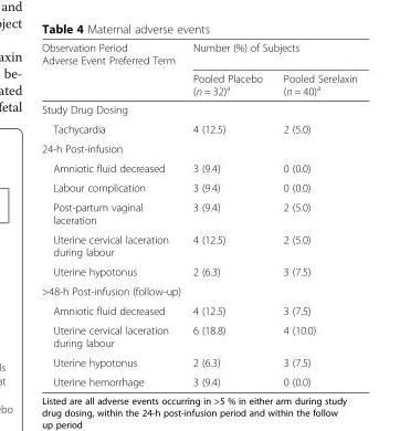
<table><thead><tr><td rowspan="2">Observation Period Adverse Event Preferred Term</td><td colspan="2">Number (%) of Subjects</td></tr><tr><td>Pooled Placebo (n = 32)<sup>a</sup></td><td>Pooled Serelaxin (n = 40)<sup>a</sup></td></tr></thead><tbody><tr><td colspan="3">Study Drug Dosing</td></tr><tr><td>Tachycardia</td><td>4 (12.5)</td><td>2 (5.0)</td></tr><tr><td colspan="3">24-h Post-infusion</td></tr><tr><td>Amniotic fluid decreased</td><td>3 (9.4)</td><td>0 (0.0)</td></tr><tr><td>Labour complication</td><td>3 (9.4)</td><td>0 (0.0)</td></tr><tr><td>Post-partum vaginal laceration</td><td>3 (9.4)</td><td>2 (5.0)</td></tr><tr><td>Uterine cervical laceration during labour</td><td>4 (12.5)</td><td>2 (5.0)</td></tr><tr><td>Uterine hypotonus</td><td>2 (6.3)</td><td>3 (7.5)</td></tr><tr><td colspan="3">&gt;48-h Post-infusion (follow-up)</td></tr><tr><td>Amniotic fluid decreased</td><td>4 (12.5)</td><td>3 (7.5)</td></tr><tr><td>Uterine cervical laceration during labour</td><td>6 (18.8)</td><td>4 (10.0)</td></tr><tr><td>Uterine hypotonus</td><td>2 (6.3)</td><td>3 (7.5)</td></tr><tr><td>Uterine hemorrhage</td><td>3 (9.4)</td><td>0 (0.0)</td></tr></tbody></table>